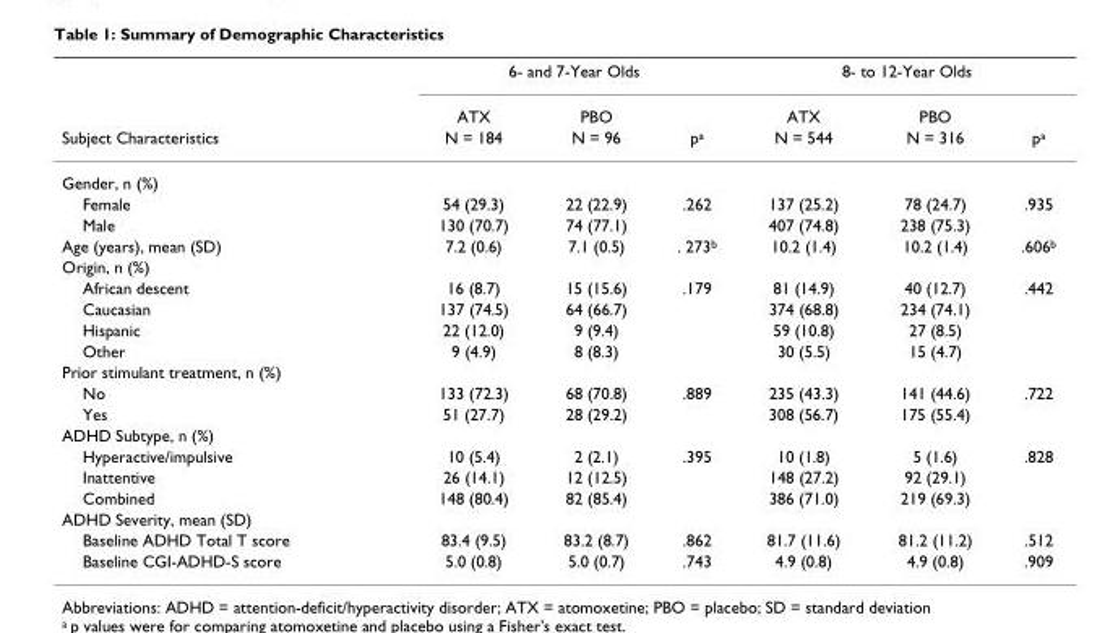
<table><thead><tr><td rowspan="3">Subject Characteristics</td><td colspan="3">6- and 7-Year Olds</td><td colspan="3">8- to 12-Year Olds</td></tr><tr><td rowspan="2">ATX N = 184</td><td rowspan="2">PBO N = 96</td><td rowspan="2">p<sup>a</sup></td><td rowspan="2">ATX N = 544</td><td rowspan="2">PBO N = 316</td><td rowspan="2">p<sup>a</sup></td></tr><tr></tr></thead><tbody><tr><td colspan="7">Gender, n (%)</td></tr><tr><td>Female</td><td>54 (29.3)</td><td>22 (22.9)</td><td>.262</td><td>137 (25.2)</td><td>78 (24.7)</td><td>.935</td></tr><tr><td>Male</td><td>130 (70.7)</td><td>74 (77.1)</td><td></td><td>407 (74.8)</td><td>238 (75.3)</td><td></td></tr><tr><td>Age (years), mean (SD)</td><td>7.2 (0.6)</td><td>7.1 (0.5)</td><td>. 273<sup>b</sup></td><td>10.2 (1.4)</td><td>10.2 (1.4)</td><td>.606<sup>b</sup></td></tr><tr><td colspan="7">Origin, n (%)</td></tr><tr><td>African descent</td><td>16 (8.7)</td><td>15 (15.6)</td><td>.179</td><td>81 (14.9)</td><td>40 (12.7)</td><td>.442</td></tr><tr><td>Caucasian</td><td>137 (74.5)</td><td>64 (66.7)</td><td></td><td>374 (68.8)</td><td>234 (74.1)</td><td></td></tr><tr><td>Hispanic</td><td>22 (12.0)</td><td>9 (9.4)</td><td></td><td>59 (10.8)</td><td>27 (8.5)</td><td></td></tr><tr><td>Other</td><td>9 (4.9)</td><td>8 (8.3)</td><td></td><td>30 (5.5)</td><td>15 (4.7)</td><td></td></tr><tr><td colspan="7">Prior stimulant treatment, n (%)</td></tr><tr><td>No</td><td>133 (72.3)</td><td>68 (70.8)</td><td>.889</td><td>235 (43.3)</td><td>141 (44.6)</td><td>.722</td></tr><tr><td>Yes</td><td>51 (27.7)</td><td>28 (29.2)</td><td></td><td>308 (56.7)</td><td>175 (55.4)</td><td></td></tr><tr><td colspan="7">ADHD Subtype, n (%)</td></tr><tr><td>Hyperactive/impulsive</td><td>10 (5.4)</td><td>2 (2.1)</td><td>.395</td><td>10 (1.8)</td><td>5 (1.6)</td><td>.828</td></tr><tr><td>Inattentive</td><td>26 (14.1)</td><td>12 (12.5)</td><td></td><td>148 (27.2)</td><td>92 (29.1)</td><td></td></tr><tr><td>Combined</td><td>148 (80.4)</td><td>82 (85.4)</td><td></td><td>386 (71.0)</td><td>219 (69.3)</td><td></td></tr><tr><td colspan="7">ADHD Severity, mean (SD)</td></tr><tr><td>Baseline ADHD Total T score</td><td>83.4 (9.5)</td><td>83.2 (8.7)</td><td>.862</td><td>81.7 (11.6)</td><td>81.2 (11.2)</td><td>.512</td></tr><tr><td>Baseline CGI-ADHD-S score</td><td>5.0 (0.8)</td><td>5.0 (0.7)</td><td>.743</td><td>4.9 (0.8)</td><td>4.9 (0.8)</td><td>.909</td></tr></tbody></table>